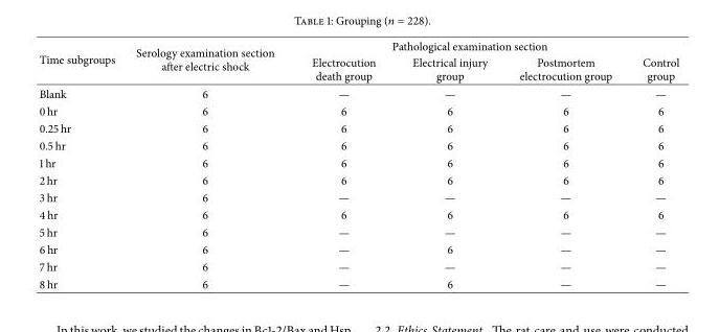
<table><thead><tr><td rowspan="2">Time subgroups</td><td rowspan="2">Serology examination section after electric shock</td><td colspan="4">Pathological examination section</td></tr><tr><td>Electrocution death group</td><td>Electrical injury group</td><td>Postmortem electrocution group</td><td>Control group</td></tr></thead><tbody><tr><td>Blank</td><td>6</td><td>—</td><td>—</td><td>—</td><td>—</td></tr><tr><td>0 hr</td><td>6</td><td>6</td><td>6</td><td>6</td><td>6</td></tr><tr><td>0.25 hr</td><td>6</td><td>6</td><td>6</td><td>6</td><td>6</td></tr><tr><td>0.5 hr</td><td>6</td><td>6</td><td>6</td><td>6</td><td>6</td></tr><tr><td>1 hr</td><td>6</td><td>6</td><td>6</td><td>6</td><td>6</td></tr><tr><td>2 hr</td><td>6</td><td>6</td><td>6</td><td>6</td><td>6</td></tr><tr><td>3 hr</td><td>6</td><td>—</td><td>—</td><td>—</td><td>—</td></tr><tr><td>4 hr</td><td>6</td><td>6</td><td>6</td><td>6</td><td>6</td></tr><tr><td>5 hr</td><td>6</td><td>—</td><td>—</td><td>—</td><td>—</td></tr><tr><td>6 hr</td><td>6</td><td>—</td><td>6</td><td>—</td><td>—</td></tr><tr><td>7 hr</td><td>6</td><td>—</td><td>—</td><td>—</td><td>—</td></tr><tr><td>8 hr</td><td>6</td><td>—</td><td>6</td><td>—</td><td>—</td></tr></tbody></table>